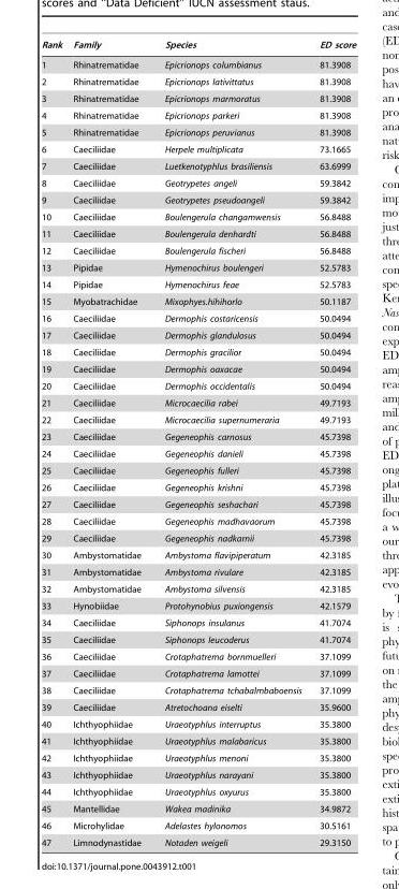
<table><thead><tr><td>Rank</td><td>Family</td><td>Species</td><td>ED score</td></tr></thead><tbody><tr><td>1</td><td>Rhinatrematidae</td><td>Epicrionops columbianus</td><td>81.3908</td></tr><tr><td>2</td><td>Rhinatrematidae</td><td>Epicrionops lativittatus</td><td>81.3908</td></tr><tr><td>3</td><td>Rhinatrematidae</td><td>Epicrionops marmoratus</td><td>81.3908</td></tr><tr><td>4</td><td>Rhinatrematidae</td><td>Epicrionops parkeri</td><td>81.3908</td></tr><tr><td>5</td><td>Rhinatrematidae</td><td>Epicrionops peruvianus</td><td>81.3908</td></tr><tr><td>6</td><td>Caeciliidae</td><td>Herpele multiplicata</td><td>73.1665</td></tr><tr><td>7</td><td>Caeciliidae</td><td>Luetkenotyphlus brasiliensis</td><td>63.6999</td></tr><tr><td>8</td><td>Caeciliidae</td><td>Geotrypetes angeli</td><td>59.3842</td></tr><tr><td>9</td><td>Caeciliidae</td><td>Geotrypetes pseudoangeli</td><td>59.3842</td></tr><tr><td>10</td><td>Caeciliidae</td><td>Boulengerula changamwensis</td><td>56.8488</td></tr><tr><td>11</td><td>Caeciliidae</td><td>Boulengerula denhardti</td><td>56.8488</td></tr><tr><td>12</td><td>Caeciliidae</td><td>Boulengerula fischeri</td><td>56.8488</td></tr><tr><td>13</td><td>Pipidae</td><td>Hymenochirus boulengeri</td><td>52.5783</td></tr><tr><td>14</td><td>Pipidae</td><td>Hymenochirus feae</td><td>52.5783</td></tr><tr><td>15</td><td>Myobatrachidae</td><td>Mixophyes.hihihorlo</td><td>50.1187</td></tr><tr><td>16</td><td>Caeciliidae</td><td>Dermophis costaricensis</td><td>50.0494</td></tr><tr><td>17</td><td>Caeciliidae</td><td>Dermophis glandulosus</td><td>50.0494</td></tr><tr><td>18</td><td>Caeciliidae</td><td>Dermophis gracilior</td><td>50.0494</td></tr><tr><td>19</td><td>Caeciliidae</td><td>Dermophis oaxacae</td><td>50.0494</td></tr><tr><td>20</td><td>Caeciliidae</td><td>Dermophis occidentalis</td><td>50.0494</td></tr><tr><td>21</td><td>Caeciliidae</td><td>Microcaecilia rabei</td><td>49.7193</td></tr><tr><td>22</td><td>Caeciliidae</td><td>Microcaecilia supernumeraria</td><td>49.7193</td></tr><tr><td>23</td><td>Caeciliidae</td><td>Gegeneophis carnosus</td><td>45.7398</td></tr><tr><td>24</td><td>Caeciliidae</td><td>Gegeneophis danieli</td><td>45.7398</td></tr><tr><td>25</td><td>Caeciliidae</td><td>Gegeneophis fulleri</td><td>45.7398</td></tr><tr><td>26</td><td>Caeciliidae</td><td>Gegeneophis krishni</td><td>45.7398</td></tr><tr><td>27</td><td>Caeciliidae</td><td>Gegeneophis seshachari</td><td>45.7398</td></tr><tr><td>28</td><td>Caeciliidae</td><td>Gegeneophis madhavaorum</td><td>45.7398</td></tr><tr><td>29</td><td>Caeciliidae</td><td>Gegeneophis nadkarnii</td><td>45.7398</td></tr><tr><td>30</td><td>Ambystomatidae</td><td>Ambystoma flavipiperatum</td><td>42.3185</td></tr><tr><td>31</td><td>Ambystomatidae</td><td>Ambystoma rivulare</td><td>42.3185</td></tr><tr><td>32</td><td>Ambystomatidae</td><td>Ambystoma silvensis</td><td>42.3185</td></tr><tr><td>33</td><td>Hynobiidae</td><td>Protohynobius puxiongensis</td><td>42.1579</td></tr><tr><td>34</td><td>Caeciliidae</td><td>Siphonops insulanus</td><td>41.7074</td></tr><tr><td>35</td><td>Caeciliidae</td><td>Siphonops leucoderus</td><td>41.7074</td></tr><tr><td>36</td><td>Caeciliidae</td><td>Crotaphatrema bornmuelleri</td><td>37.1099</td></tr><tr><td>37</td><td>Caeciliidae</td><td>Crotaphatrema lamottei</td><td>37.1099</td></tr><tr><td>38</td><td>Caeciliidae</td><td>Crotaphatrema tchabalmbaboensis</td><td>37.1099</td></tr><tr><td>39</td><td>Caeciliidae</td><td>Atretochoana eiselti</td><td>35.9600</td></tr><tr><td>40</td><td>Ichthyophiidae</td><td>Uraeotyphlus interruptus</td><td>35.3800</td></tr><tr><td>41</td><td>Ichthyophiidae</td><td>Uraeotyphlus malabaricus</td><td>35.3800</td></tr><tr><td>42</td><td>Ichthyophiidae</td><td>Uraeotyphlus menoni</td><td>35.3800</td></tr><tr><td>43</td><td>Ichthyophiidae</td><td>Uraeotyphlus narayani</td><td>35.3800</td></tr><tr><td>44</td><td>Ichthyophiidae</td><td>Uraeotyphlus oxyurus</td><td>35.3800</td></tr><tr><td>45</td><td>Mantellidae</td><td>Wakea madinika</td><td>34.9872</td></tr><tr><td>46</td><td>Microhylidae</td><td>Adelastes hylonomos</td><td>30.5161</td></tr><tr><td>47</td><td>Limnodynastidae</td><td>Notaden weigeli</td><td>29.3150</td></tr></tbody></table>